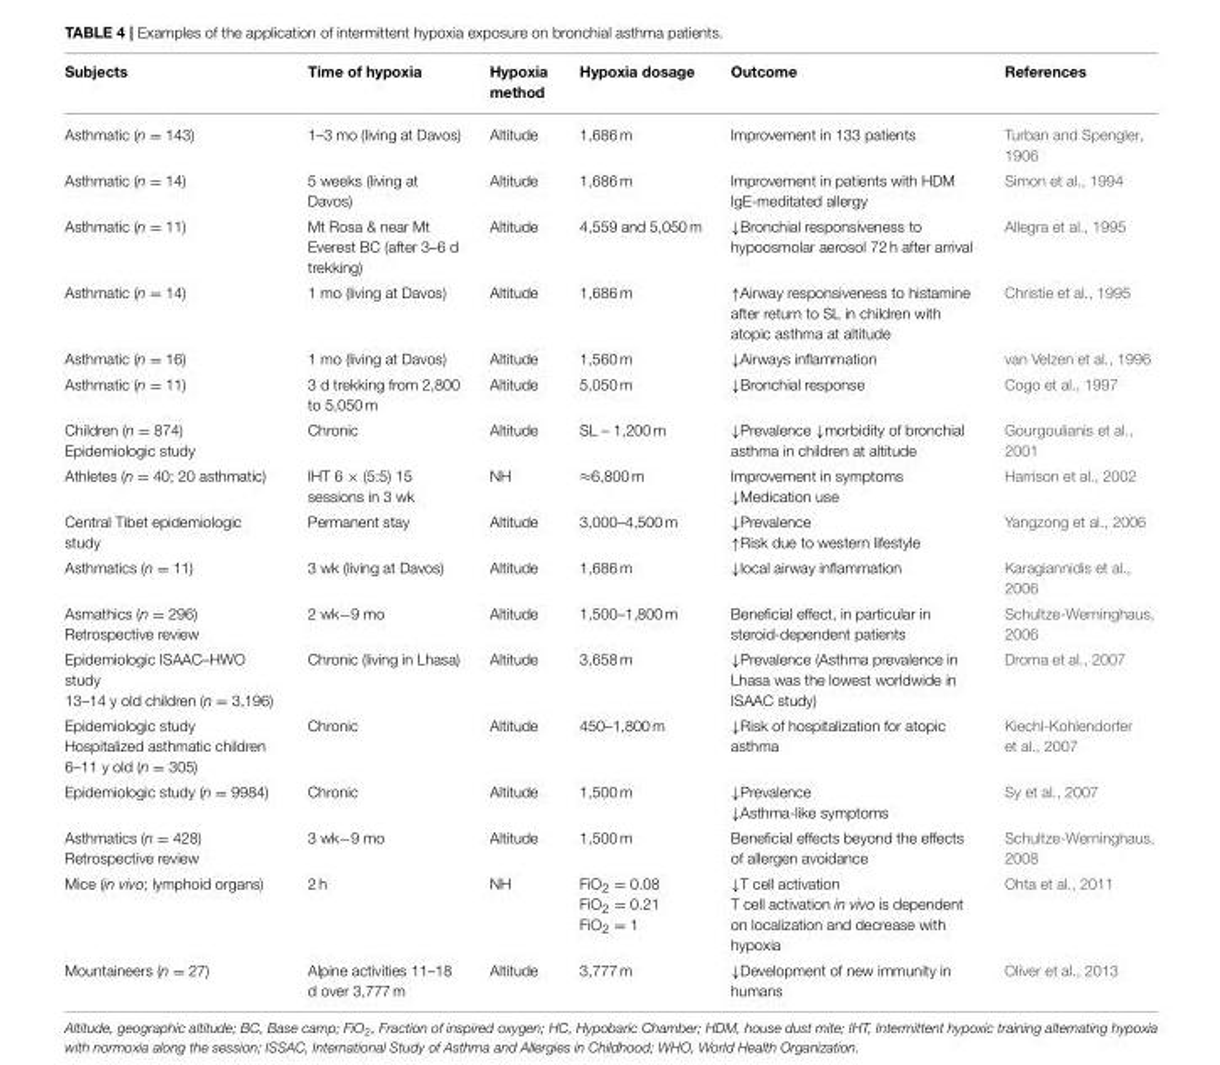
<table><thead><tr><td>Subjects</td><td>Time of hypoxia</td><td>Hypoxia method</td><td>Hypoxia dosage</td><td>Outcome</td><td>References</td></tr></thead><tbody><tr><td>Asthmatic (n = 143)</td><td>1–3 mo (living at Davos)</td><td>Altitude</td><td>1,686 m</td><td>Improvement in 133 patients</td><td>Turban and Spengler, 1906</td></tr><tr><td>Asthmatic (n = 14)</td><td>5 weeks (living at Davos)</td><td>Altitude</td><td>1,686 m</td><td>Improvement in patients with HDM IgE-meditated allergy</td><td>Simon et al., 1994</td></tr><tr><td>Asthmatic (n = 11)</td><td>Mt Rosa &amp; near Mt Everest BC (after 3–6 d trekking)</td><td>Altitude</td><td>4,559 and 5,050 m</td><td>↓Bronchial responsiveness to hypoosmolar aerosol 72 h after arrival</td><td>Allegra et al., 1995</td></tr><tr><td>Asthmatic (n = 14)</td><td>1 mo (living at Davos)</td><td>Altitude</td><td>1,686 m</td><td>↑Airway responsiveness to histamine after return to SL in children with atopic asthma at altitude</td><td>Christie et al., 1995</td></tr><tr><td>Asthmatic (n = 16)</td><td>1 mo (living at Davos)</td><td>Altitude</td><td>1,560 m</td><td>↓Airways inflammation</td><td>van Velzen et al., 1996</td></tr><tr><td>Asthmatic (n = 11)</td><td>3 d trekking from 2,800 to 5,050 m</td><td>Altitude</td><td>5,050 m</td><td>↓Bronchial response</td><td>Cogo et al., 1997</td></tr><tr><td>Children (n = 874) Epidemiologic study</td><td>Chronic</td><td>Altitude</td><td>SL – 1,200 m</td><td>↓Prevalence ↓morbidity of bronchial asthma in children at altitude</td><td>Gourgoulianis et al., 2001</td></tr><tr><td>Athletes (n = 40; 20 asthmatic)</td><td>IHT 6 × (5:5) 15 sessions in 3 wk</td><td>NH</td><td>≈6,800 m</td><td>Improvement in symptoms ↓Medication use</td><td>Harrison et al., 2002</td></tr><tr><td>Central Tibet epidemiologic study</td><td>Permanent stay</td><td>Altitude</td><td>3,000–4,500 m</td><td>↓Prevalence ↑Risk due to western lifestyle</td><td>Yangzong et al., 2006</td></tr><tr><td>Asthmatics (n = 11)</td><td>3 wk (living at Davos)</td><td>Altitude</td><td>1,686 m</td><td>↓local airway inflammation</td><td>Karagiannidis et al., 2006</td></tr><tr><td>Asmathics (n = 296) Retrospective review</td><td>2 wk−9 mo</td><td>Altitude</td><td>1,500–1,800 m</td><td>Beneficial effect, in particular in steroid-dependent patients</td><td>Schultze-Werninghaus, 2006</td></tr><tr><td>Epidemiologic ISAAC–HWO study 13–14 y old children (n = 3,196)</td><td>Chronic (living in Lhasa)</td><td>Altitude</td><td>3,658 m</td><td>↓Prevalence (Asthma prevalence in Lhasa was the lowest worldwide in ISAAC study)</td><td>Droma et al., 2007</td></tr><tr><td>Epidemiologic study Hospitalized asthmatic children 6–11 y old (n = 305)</td><td>Chronic</td><td>Altitude</td><td>450–1,800 m</td><td>↓Risk of hospitalization for atopic asthma</td><td>Kiechl-Kohlendorfer et al., 2007</td></tr><tr><td>Epidemiologic study (n = 9984)</td><td>Chronic</td><td>Altitude</td><td>1,500 m</td><td>↓Prevalence ↓Asthma-like symptoms</td><td>Sy et al., 2007</td></tr><tr><td>Asthmatics (n = 428) Retrospective review</td><td>3 wk−9 mo</td><td>Altitude</td><td>1,500 m</td><td>Beneficial effects beyond the effects of allergen avoidance</td><td>Schultze-Werninghaus, 2008</td></tr><tr><td>Mice (in vivo; lymphoid organs)</td><td>2 h</td><td>NH</td><td>FiO<sub>2</sub> = 0.08 FiO<sub>2</sub> = 0.21 FiO<sub>2</sub> = 1</td><td>↓T cell activation T cell activation in vivo is dependent on localization and decrease with hypoxia</td><td>Ohta et al., 2011</td></tr><tr><td>Mountaineers (n = 27)</td><td>Alpine activities 11–18 d over 3,777 m</td><td>Altitude</td><td>3,777 m</td><td>↓Development of new immunity in humans</td><td>Oliver et al., 2013</td></tr></tbody></table>